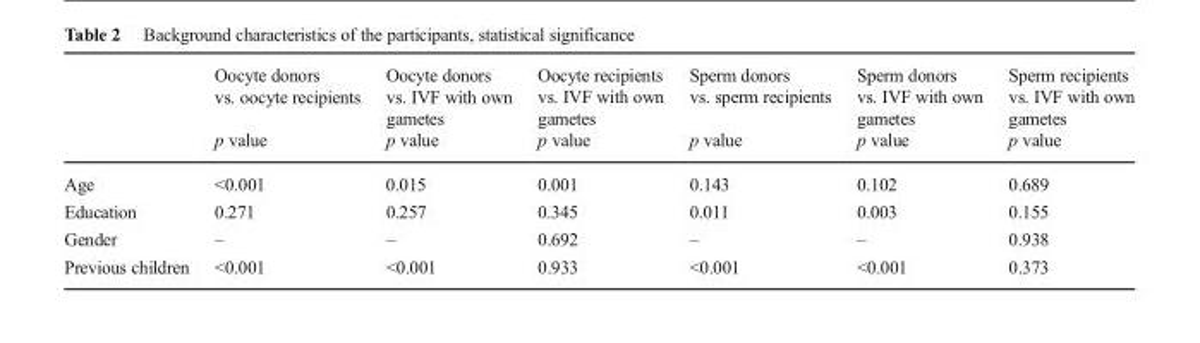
<table><thead><tr><td rowspan="2"></td><td rowspan="2">Oocyte donors vs. oocyte recipients p value</td><td rowspan="2">Oocyte donors vs. IVF with own gametes p value</td><td rowspan="2">Oocyte recipients vs. IVF with own gametes p value</td><td rowspan="2">Sperm donors vs. sperm recipients p value</td><td rowspan="2">Sperm donors vs. IVF with own gametes p value</td><td rowspan="2">Sperm recipients vs. IVF with own gametes p value</td></tr><tr></tr></thead><tbody><tr><td>Age</td><td>&lt;0.001</td><td>0.015</td><td>0.001</td><td>0.143</td><td>0.102</td><td>0.689</td></tr><tr><td>Education</td><td>0.271</td><td>0.257</td><td>0.345</td><td>0.011</td><td>0.003</td><td>0.155</td></tr><tr><td>Gender</td><td>–</td><td>–</td><td>0.692</td><td>–</td><td>–</td><td>0.938</td></tr><tr><td>Previous children</td><td>&lt;0.001</td><td>&lt;0.001</td><td>0.933</td><td>&lt;0.001</td><td>&lt;0.001</td><td>0.373</td></tr></tbody></table>